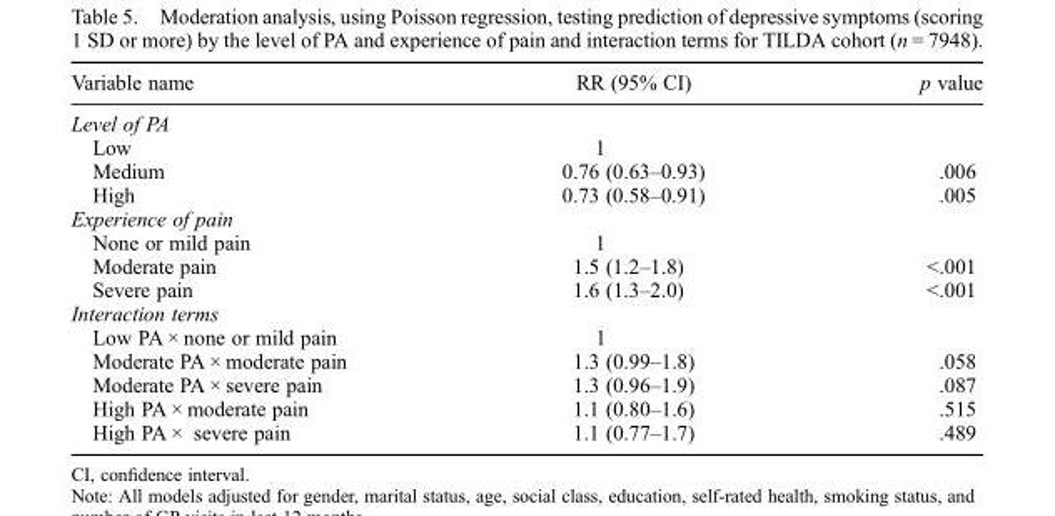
<table><thead><tr><td>Variable name</td><td>RR (95% CI)</td><td>p value</td></tr></thead><tbody><tr><td colspan="3">Level of PA</td></tr><tr><td>Low</td><td>1</td><td></td></tr><tr><td>Medium</td><td>0.76 (0.63–0.93)</td><td>.006</td></tr><tr><td>High</td><td>0.73 (0.58–0.91)</td><td>.005</td></tr><tr><td colspan="3">Experience of pain</td></tr><tr><td>None or mild pain</td><td>1</td><td></td></tr><tr><td>Moderate pain</td><td>1.5 (1.2–1.8)</td><td>&lt;.001</td></tr><tr><td>Severe pain</td><td>1.6 (1.3–2.0)</td><td>&lt;.001</td></tr><tr><td colspan="3">Interaction terms</td></tr><tr><td>Low PA × none or mild pain</td><td>1</td><td></td></tr><tr><td>Moderate PA × moderate pain</td><td>1.3 (0.99–1.8)</td><td>.058</td></tr><tr><td>Moderate PA × severe pain</td><td>1.3 (0.96–1.9)</td><td>.087</td></tr><tr><td>High PA × moderate pain</td><td>1.1 (0.80–1.6)</td><td>.515</td></tr><tr><td>High PA × severe pain</td><td>1.1 (0.77–1.7)</td><td>.489</td></tr></tbody></table>